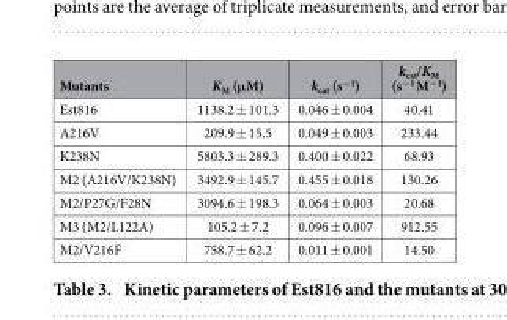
<table><thead><tr><td>Mutants</td><td>K<sub>M</sub> (μM)</td><td>k<sub>cat</sub> (s<sup>−1</sup>)</td><td>k<sub>cat</sub>/K<sub>M</sub> (s<sup>−1</sup> M<sup>−1</sup>)</td></tr></thead><tbody><tr><td>Est816</td><td>1138.2 ± 101.3</td><td>0.046 ± 0.004</td><td>40.41</td></tr><tr><td>A216V</td><td>209.9 ± 15.5</td><td>0.049 ± 0.003</td><td>233.44</td></tr><tr><td>K238N</td><td>5803.3 ± 289.3</td><td>0.400 ± 0.022</td><td>68.93</td></tr><tr><td>M2 (A216V/K238N)</td><td>3492.9 ± 145.7</td><td>0.455 ± 0.018</td><td>130.26</td></tr><tr><td>M2/P27G/F28N</td><td>3094.6 ± 198.3</td><td>0.064 ± 0.003</td><td>20.68</td></tr><tr><td>M3 (M2/L122A)</td><td>105.2 ± 7.2</td><td>0.096 ± 0.007</td><td>912.55</td></tr><tr><td>M2/V216F</td><td>758.7 ± 62.2</td><td>0.011 ± 0.001</td><td>14.50</td></tr></tbody></table>